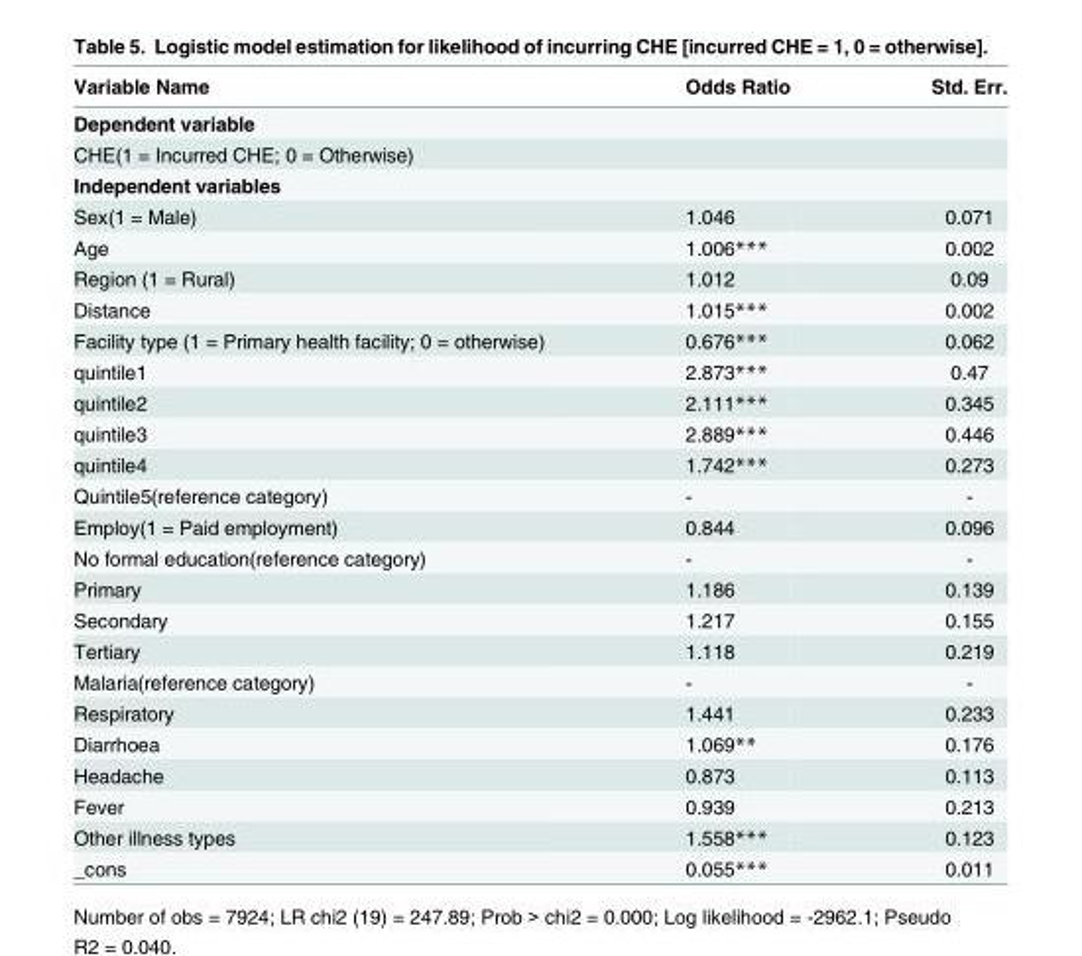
<table><thead><tr><td>Variable Name</td><td>Odds Ratio</td><td>Std. Err.</td></tr></thead><tbody><tr><td colspan="3">Dependent variable</td></tr><tr><td colspan="3">CHE(1 = Incurred CHE; 0 = Otherwise)</td></tr><tr><td colspan="3">Independent variables</td></tr><tr><td>Sex(1 = Male)</td><td>1.046</td><td>0.071</td></tr><tr><td>Age</td><td>1.006***</td><td>0.002</td></tr><tr><td>Region (1 = Rural)</td><td>1.012</td><td>0.09</td></tr><tr><td>Distance</td><td>1.015***</td><td>0.002</td></tr><tr><td>Facility type (1 = Primary health facility; 0 = otherwise)</td><td>0.676***</td><td>0.062</td></tr><tr><td>quintile1</td><td>2.873***</td><td>0.47</td></tr><tr><td>quintile2</td><td>2.111***</td><td>0.345</td></tr><tr><td>quintile3</td><td>2.889***</td><td>0.446</td></tr><tr><td>quintile4</td><td>1.742***</td><td>0.273</td></tr><tr><td>Quintile5(reference category)</td><td>-</td><td>-</td></tr><tr><td>Employ(1 = Paid employment)</td><td>0.844</td><td>0.096</td></tr><tr><td>No formal education(reference category)</td><td>-</td><td>-</td></tr><tr><td>Primary</td><td>1.186</td><td>0.139</td></tr><tr><td>Secondary</td><td>1.217</td><td>0.155</td></tr><tr><td>Tertiary</td><td>1.118</td><td>0.219</td></tr><tr><td>Malaria(reference category)</td><td>-</td><td>-</td></tr><tr><td>Respiratory</td><td>1.441</td><td>0.233</td></tr><tr><td>Diarrhoea</td><td>1.069**</td><td>0.176</td></tr><tr><td>Headache</td><td>0.873</td><td>0.113</td></tr><tr><td>Fever</td><td>0.939</td><td>0.213</td></tr><tr><td>Other illness types</td><td>1.558***</td><td>0.123</td></tr><tr><td>_cons</td><td>0.055***</td><td>0.011</td></tr></tbody></table>